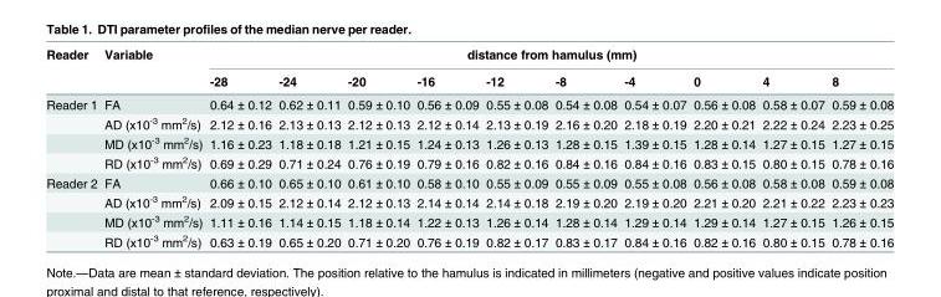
<table><thead><tr><td rowspan="2">Reader</td><td rowspan="2">Variable</td><td colspan="10">distance from hamulus (mm)</td></tr><tr><td>-28</td><td>-24</td><td>-20</td><td>-16</td><td>-12</td><td>-8</td><td>-4</td><td>0</td><td>4</td><td>8</td></tr></thead><tbody><tr><td rowspan="4">Reader 1</td><td>FA</td><td>0.64 ± 0.12</td><td>0.62 ± 0.11</td><td>0.59 ± 0.10</td><td>0.56 ± 0.09</td><td>0.55 ± 0.08</td><td>0.54 ± 0.08</td><td>0.54 ± 0.07</td><td>0.56 ± 0.08</td><td>0.58 ± 0.07</td><td>0.59 ± 0.08</td></tr><tr><td>AD (x10<sup>-3</sup> mm<sup>2</sup>/s)</td><td>2.12 ± 0.16</td><td>2.13 ± 0.13</td><td>2.12 ± 0.13</td><td>2.12 ± 0.14</td><td>2.13 ± 0.19</td><td>2.16 ± 0.20</td><td>2.18 ± 0.19</td><td>2.20 ± 0.21</td><td>2.22 ± 0.24</td><td>2.23 ± 0.25</td></tr><tr><td>MD (x10<sup>-3</sup> mm<sup>2</sup>/s)</td><td>1.16 ± 0.23</td><td>1.18 ± 0.18</td><td>1.21 ± 0.15</td><td>1.24 ± 0.13</td><td>1.26 ± 0.13</td><td>1.28 ± 0.15</td><td>1.39 ± 0.15</td><td>1.28 ± 0.14</td><td>1.27 ± 0.15</td><td>1.27 ± 0.15</td></tr><tr><td>RD (x10<sup>-3</sup> mm<sup>2</sup>/s)</td><td>0.69 ± 0.29</td><td>0.71 ± 0.24</td><td>0.76 ± 0.19</td><td>0.79 ± 0.16</td><td>0.82 ± 0.16</td><td>0.84 ± 0.16</td><td>0.84 ± 0.16</td><td>0.83 ± 0.15</td><td>0.80 ± 0.15</td><td>0.78 ± 0.16</td></tr><tr><td rowspan="4">Reader 2</td><td>FA</td><td>0.66 ± 0.10</td><td>0.65 ± 0.10</td><td>0.61 ± 0.10</td><td>0.58 ± 0.10</td><td>0.55 ± 0.09</td><td>0.55 ± 0.09</td><td>0.55 ± 0.08</td><td>0.56 ± 0.08</td><td>0.58 ± 0.08</td><td>0.59 ± 0.08</td></tr><tr><td>AD (x10<sup>-3</sup> mm<sup>2</sup>/s)</td><td>2.09 ± 0.15</td><td>2.12 ± 0.14</td><td>2.12 ± 0.13</td><td>2.14 ± 0.14</td><td>2.14 ± 0.18</td><td>2.19 ± 0.20</td><td>2.19 ± 0.20</td><td>2.21 ± 0.20</td><td>2.21 ± 0.22</td><td>2.23 ± 0.23</td></tr><tr><td>MD (x10<sup>-3</sup> mm<sup>2</sup>/s)</td><td>1.11 ± 0.16</td><td>1.14 ± 0.15</td><td>1.18 ± 0.14</td><td>1.22 ± 0.13</td><td>1.26 ± 0.14</td><td>1.28 ± 0.14</td><td>1.29 ± 0.14</td><td>1.29 ± 0.14</td><td>1.27 ± 0.15</td><td>1.26 ± 0.15</td></tr><tr><td>RD (x10<sup>-3</sup> mm<sup>2</sup>/s)</td><td>0.63 ± 0.19</td><td>0.65 ± 0.20</td><td>0.71 ± 0.20</td><td>0.76 ± 0.19</td><td>0.82 ± 0.17</td><td>0.83 ± 0.17</td><td>0.84 ± 0.16</td><td>0.82 ± 0.16</td><td>0.80 ± 0.15</td><td>0.78 ± 0.16</td></tr></tbody></table>